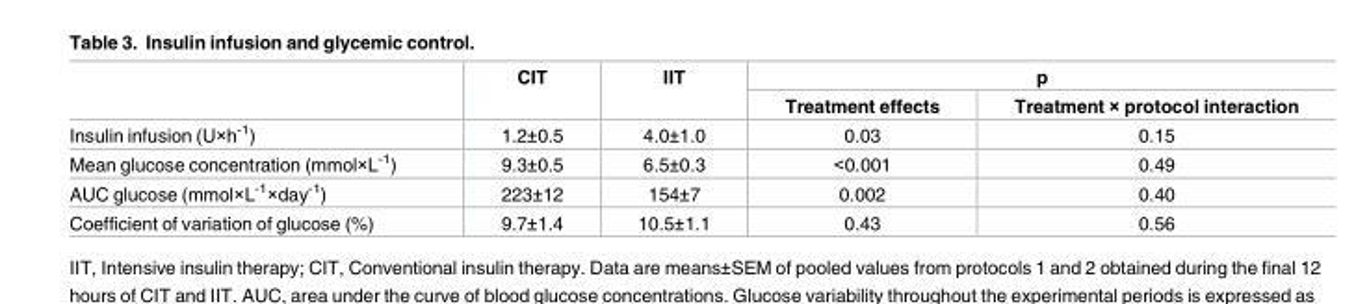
<table><thead><tr><td rowspan="2"></td><td rowspan="2">CIT</td><td rowspan="2">IIT</td><td colspan="2">p</td></tr><tr><td>Treatment effects</td><td>Treatment × protocol interaction</td></tr></thead><tbody><tr><td>Insulin infusion (U×h<sup>-1</sup>)</td><td>1.2±0.5</td><td>4.0±1.0</td><td>0.03</td><td>0.15</td></tr><tr><td>Mean glucose concentration (mmol×L<sup>-1</sup>)</td><td>9.3±0.5</td><td>6.5±0.3</td><td>&lt;0.001</td><td>0.49</td></tr><tr><td>AUC glucose (mmol×L<sup>-1</sup>×day<sup>-1</sup>)</td><td>223±12</td><td>154±7</td><td>0.002</td><td>0.40</td></tr><tr><td>Coefficient of variation of glucose (%)</td><td>9.7±1.4</td><td>10.5±1.1</td><td>0.43</td><td>0.56</td></tr></tbody></table>